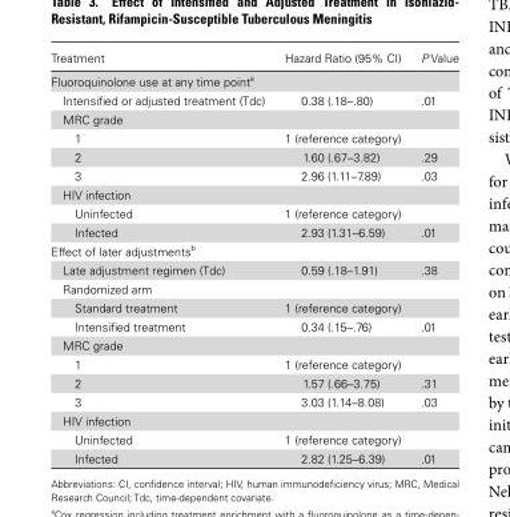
<table><thead><tr><td>Treatment</td><td>Hazard Ratio (95% CI)</td><td>P Value</td></tr></thead><tbody><tr><td colspan="3">Fluoroquinolone use at any time point<sup>a</sup></td></tr><tr><td>Intensified or adjusted treatment (Tdc)</td><td>0.38 (.18–.80)</td><td>.01</td></tr><tr><td colspan="3">MRC grade</td></tr><tr><td>1</td><td>1 (reference category)</td><td></td></tr><tr><td>2</td><td>1.60 (.67–3.82)</td><td>.29</td></tr><tr><td>3</td><td>2.96 (1.11–7.89)</td><td>.03</td></tr><tr><td colspan="3">HIV infection</td></tr><tr><td>Uninfected</td><td>1 (reference category)</td><td></td></tr><tr><td>Infected</td><td>2.93 (1.31–6.59)</td><td>.01</td></tr><tr><td colspan="3">Effect of later adjustments<sup>b</sup></td></tr><tr><td>Late adjustment regimen (Tdc)</td><td>0.59 (.18–1.91)</td><td>.38</td></tr><tr><td colspan="3">Randomized arm</td></tr><tr><td>Standard treatment</td><td>1 (reference category)</td><td></td></tr><tr><td>Intensified treatment</td><td>0.34 (.15–.76)</td><td>.01</td></tr><tr><td colspan="3">MRC grade</td></tr><tr><td>1</td><td>1 (reference category)</td><td></td></tr><tr><td>2</td><td>1.57 (.66–3.75)</td><td>.31</td></tr><tr><td>3</td><td>3.03 (1.14–8.08)</td><td>.03</td></tr><tr><td colspan="3">HIV infection</td></tr><tr><td>Uninfected</td><td>1 (reference category)</td><td></td></tr><tr><td>Infected</td><td>2.82 (1.25–6.39)</td><td>.01</td></tr></tbody></table>